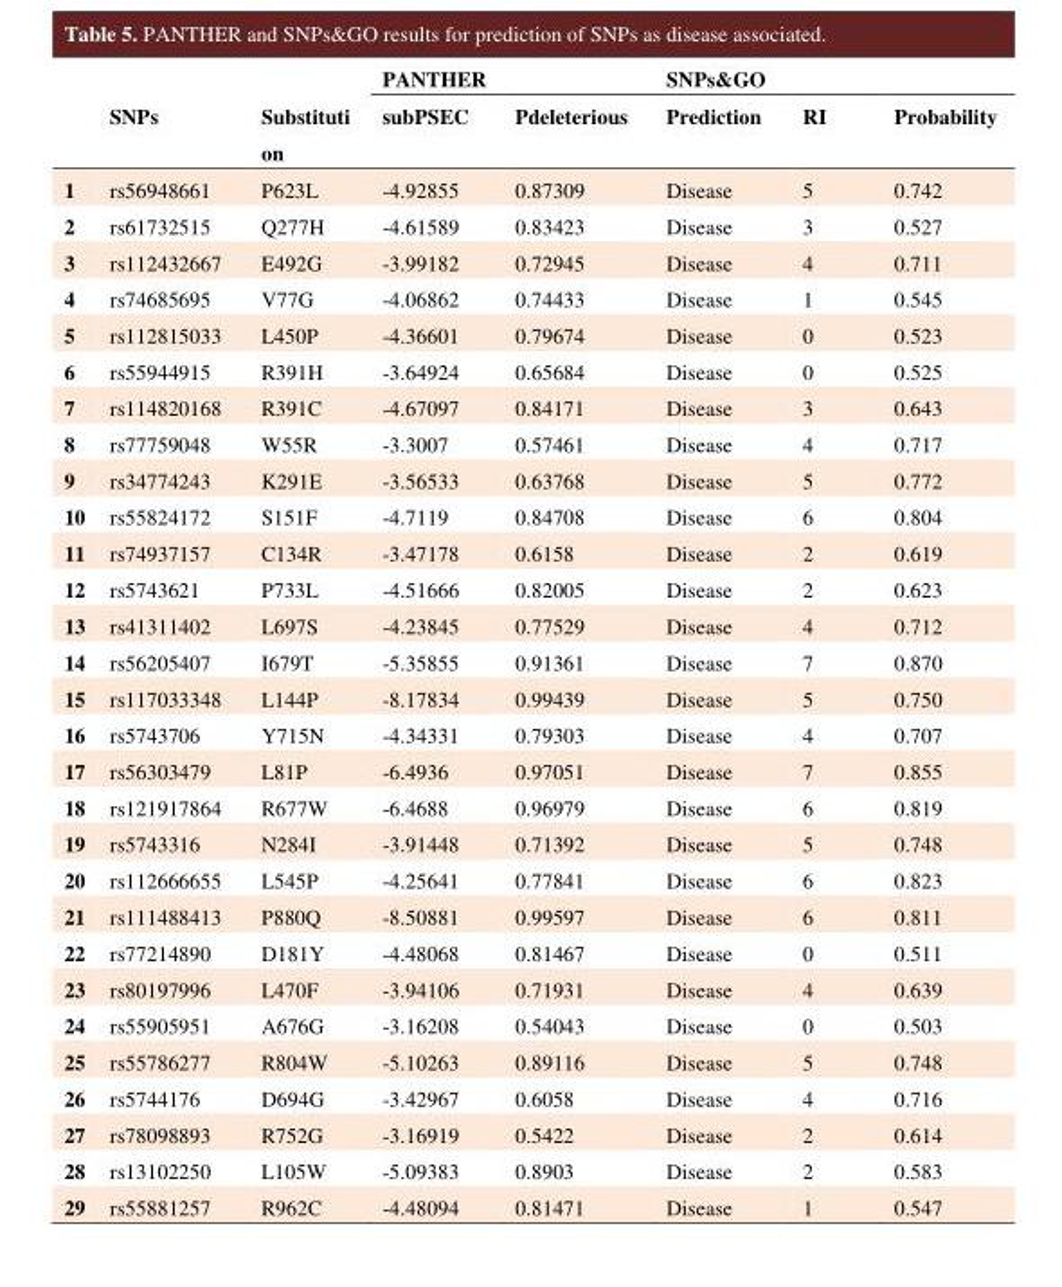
<table><thead><tr><td rowspan="2"></td><td rowspan="2">SNPs</td><td rowspan="2">Substituti on</td><td colspan="2">PANTHER</td><td colspan="3">SNPs&amp;GO</td></tr><tr><td>subPSEC</td><td>Pdeleterious</td><td>Prediction</td><td>RI</td><td>Probability</td></tr></thead><tbody><tr><td>1</td><td>rs56948661</td><td>P623L</td><td>-4.92855</td><td>0.87309</td><td>Disease</td><td>5</td><td>0.742</td></tr><tr><td>2</td><td>rs61732515</td><td>Q277H</td><td>-4.61589</td><td>0.83423</td><td>Disease</td><td>3</td><td>0.527</td></tr><tr><td>3</td><td>rs112432667</td><td>E492G</td><td>-3.99182</td><td>0.72945</td><td>Disease</td><td>4</td><td>0.711</td></tr><tr><td>4</td><td>rs74685695</td><td>V77G</td><td>-4.06862</td><td>0.74433</td><td>Disease</td><td>1</td><td>0.545</td></tr><tr><td>5</td><td>rs112815033</td><td>L450P</td><td>-4.36601</td><td>0.79674</td><td>Disease</td><td>0</td><td>0.523</td></tr><tr><td>6</td><td>rs55944915</td><td>R391H</td><td>-3.64924</td><td>0.65684</td><td>Disease</td><td>0</td><td>0.525</td></tr><tr><td>7</td><td>rs114820168</td><td>R391C</td><td>-4.67097</td><td>0.84171</td><td>Disease</td><td>3</td><td>0.643</td></tr><tr><td>8</td><td>rs77759048</td><td>W55R</td><td>-3.3007</td><td>0.57461</td><td>Disease</td><td>4</td><td>0.717</td></tr><tr><td>9</td><td>rs34774243</td><td>K291E</td><td>-3.56533</td><td>0.63768</td><td>Disease</td><td>5</td><td>0.772</td></tr><tr><td>10</td><td>rs55824172</td><td>S151F</td><td>-4.7119</td><td>0.84708</td><td>Disease</td><td>6</td><td>0.804</td></tr><tr><td>11</td><td>rs74937157</td><td>C134R</td><td>-3.47178</td><td>0.6158</td><td>Disease</td><td>2</td><td>0.619</td></tr><tr><td>12</td><td>rs5743621</td><td>P733L</td><td>-4.51666</td><td>0.82005</td><td>Disease</td><td>2</td><td>0.623</td></tr><tr><td>13</td><td>rs41311402</td><td>L697S</td><td>-4.23845</td><td>0.77529</td><td>Disease</td><td>4</td><td>0.712</td></tr><tr><td>14</td><td>rs56205407</td><td>I679T</td><td>-5.35855</td><td>0.91361</td><td>Disease</td><td>7</td><td>0.870</td></tr><tr><td>15</td><td>rs117033348</td><td>L144P</td><td>-8.17834</td><td>0.99439</td><td>Disease</td><td>5</td><td>0.750</td></tr><tr><td>16</td><td>rs5743706</td><td>Y715N</td><td>-4.34331</td><td>0.79303</td><td>Disease</td><td>4</td><td>0.707</td></tr><tr><td>17</td><td>rs56303479</td><td>L81P</td><td>-6.4936</td><td>0.97051</td><td>Disease</td><td>7</td><td>0.855</td></tr><tr><td>18</td><td>rs121917864</td><td>R677W</td><td>-6.4688</td><td>0.96979</td><td>Disease</td><td>6</td><td>0.819</td></tr><tr><td>19</td><td>rs5743316</td><td>N284I</td><td>-3.91448</td><td>0.71392</td><td>Disease</td><td>5</td><td>0.748</td></tr><tr><td>20</td><td>rs112666655</td><td>L545P</td><td>-4.25641</td><td>0.77841</td><td>Disease</td><td>6</td><td>0.823</td></tr><tr><td>21</td><td>rs111488413</td><td>P880Q</td><td>-8.50881</td><td>0.99597</td><td>Disease</td><td>6</td><td>0.811</td></tr><tr><td>22</td><td>rs77214890</td><td>D181Y</td><td>-4.48068</td><td>0.81467</td><td>Disease</td><td>0</td><td>0.511</td></tr><tr><td>23</td><td>rs80197996</td><td>L470F</td><td>-3.94106</td><td>0.71931</td><td>Disease</td><td>4</td><td>0.639</td></tr><tr><td>24</td><td>rs55905951</td><td>A676G</td><td>-3.16208</td><td>0.54043</td><td>Disease</td><td>0</td><td>0.503</td></tr><tr><td>25</td><td>rs55786277</td><td>R804W</td><td>-5.10263</td><td>0.89116</td><td>Disease</td><td>5</td><td>0.748</td></tr><tr><td>26</td><td>rs5744176</td><td>D694G</td><td>-3.42967</td><td>0.6058</td><td>Disease</td><td>4</td><td>0.716</td></tr><tr><td>27</td><td>rs78098893</td><td>R752G</td><td>-3.16919</td><td>0.5422</td><td>Disease</td><td>2</td><td>0.614</td></tr><tr><td>28</td><td>rs13102250</td><td>L105W</td><td>-5.09383</td><td>0.8903</td><td>Disease</td><td>2</td><td>0.583</td></tr><tr><td>29</td><td>rs55881257</td><td>R962C</td><td>-4.48094</td><td>0.81471</td><td>Disease</td><td>1</td><td>0.547</td></tr></tbody></table>